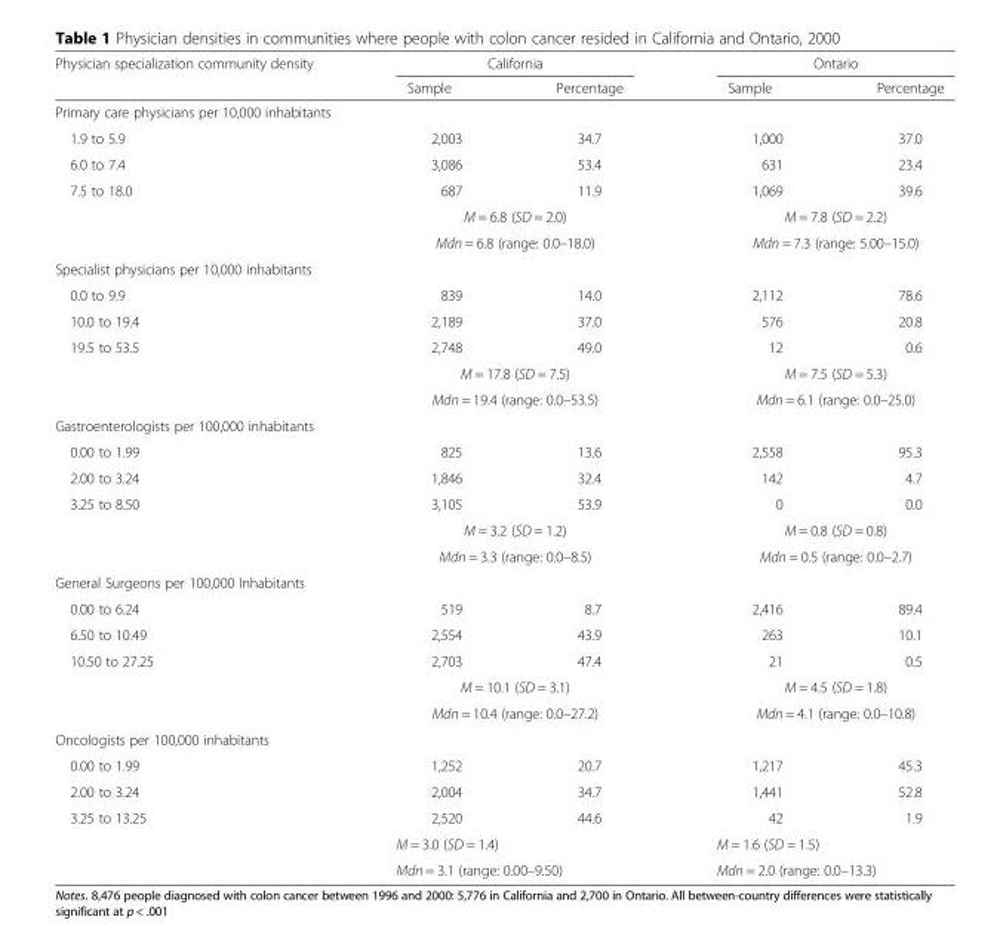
<table><thead><tr><td rowspan="2">Physician specialization community density</td><td colspan="2">California</td><td colspan="2">Ontario</td></tr><tr><td>Sample</td><td>Percentage</td><td>Sample</td><td>Percentage</td></tr></thead><tbody><tr><td colspan="5">Primary care physicians per 10,000 inhabitants</td></tr><tr><td>1.9 to 5.9</td><td>2,003</td><td>34.7</td><td>1,000</td><td>37.0</td></tr><tr><td>6.0 to 7.4</td><td>3,086</td><td>53.4</td><td>631</td><td>23.4</td></tr><tr><td rowspan="3">7.5 to 18.0</td><td>687</td><td>11.9</td><td>1,069</td><td>39.6</td></tr><tr><td colspan="2">M = 6.8 (SD = 2.0)</td><td colspan="2">M = 7.8 (SD = 2.2)</td></tr><tr><td colspan="2">Mdn = 6.8 (range: 0.0–18.0)</td><td colspan="2">Mdn = 7.3 (range: 5.00–15.0)</td></tr><tr><td colspan="5">Specialist physicians per 10,000 inhabitants</td></tr><tr><td>0.0 to 9.9</td><td>839</td><td>14.0</td><td>2,112</td><td>78.6</td></tr><tr><td>10.0 to 19.4</td><td>2,189</td><td>37.0</td><td>576</td><td>20.8</td></tr><tr><td rowspan="3">19.5 to 53.5</td><td>2,748</td><td>49.0</td><td>12</td><td>0.6</td></tr><tr><td colspan="2">M = 17.8 (SD = 7.5)</td><td colspan="2">M = 7.5 (SD = 5.3)</td></tr><tr><td colspan="2">Mdn = 19.4 (range: 0.0–53.5)</td><td colspan="2">Mdn = 6.1 (range: 0.0–25.0)</td></tr><tr><td colspan="5">Gastroenterologists per 100,000 inhabitants</td></tr><tr><td>0.00 to 1.99</td><td>825</td><td>13.6</td><td>2,558</td><td>95.3</td></tr><tr><td>2.00 to 3.24</td><td>1,846</td><td>32.4</td><td>142</td><td>4.7</td></tr><tr><td rowspan="3">3.25 to 8.50</td><td>3,105</td><td>53.9</td><td>0</td><td>0.0</td></tr><tr><td colspan="2">M = 3.2 (SD = 1.2)</td><td colspan="2">M = 0.8 (SD = 0.8)</td></tr><tr><td colspan="2">Mdn = 3.3 (range: 0.0–8.5)</td><td colspan="2">Mdn = 0.5 (range: 0.0–2.7)</td></tr><tr><td colspan="5">General Surgeons per 100,000 Inhabitants</td></tr><tr><td>0.00 to 6.24</td><td>519</td><td>8.7</td><td>2,416</td><td>89.4</td></tr><tr><td>6.50 to 10.49</td><td>2,554</td><td>43.9</td><td>263</td><td>10.1</td></tr><tr><td rowspan="3">10.50 to 27.25</td><td>2,703</td><td>47.4</td><td>21</td><td>0.5</td></tr><tr><td colspan="2">M = 10.1 (SD = 3.1)</td><td colspan="2">M = 4.5 (SD = 1.8)</td></tr><tr><td colspan="2">Mdn = 10.4 (range: 0.0–27.2)</td><td colspan="2">Mdn = 4.1 (range: 0.0–10.8)</td></tr><tr><td colspan="5">Oncologists per 100,000 inhabitants</td></tr><tr><td>0.00 to 1.99</td><td>1,252</td><td>20.7</td><td>1,217</td><td>45.3</td></tr><tr><td>2.00 to 3.24</td><td>2,004</td><td>34.7</td><td>1,441</td><td>52.8</td></tr><tr><td rowspan="3">3.25 to 13.25</td><td>2,520</td><td>44.6</td><td>42</td><td>1.9</td></tr><tr><td colspan="2">M = 3.0 (SD = 1.4)</td><td colspan="2">M = 1.6 (SD = 1.5)</td></tr><tr><td colspan="2">Mdn = 3.1 (range: 0.00–9.50)</td><td colspan="2">Mdn = 2.0 (range: 0.0–13.3)</td></tr></tbody></table>